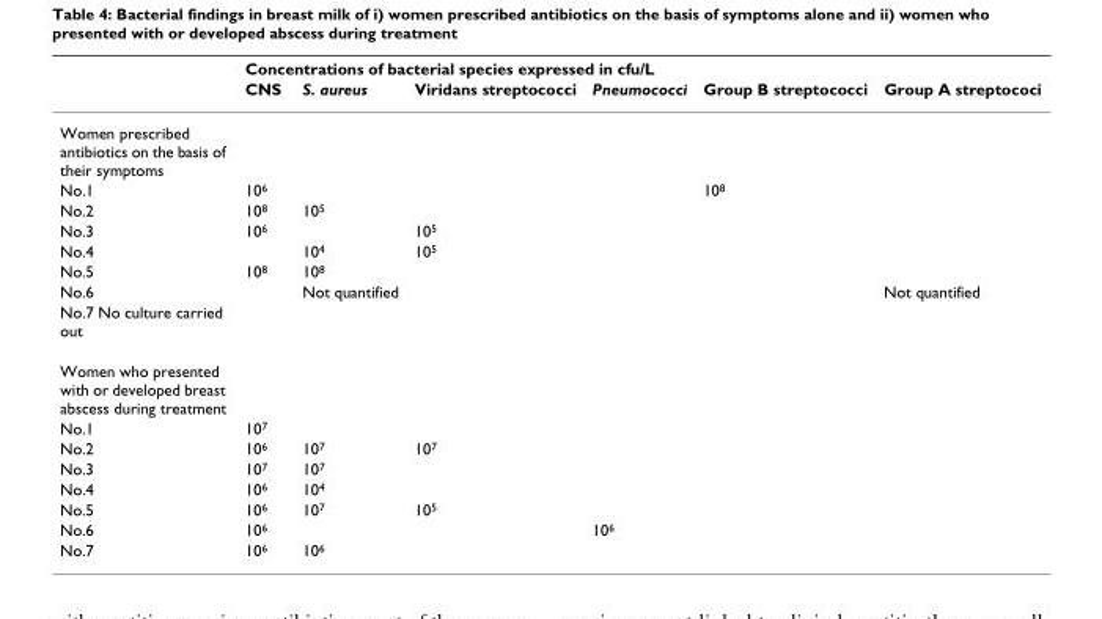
<table><thead><tr><td rowspan="2"></td><td colspan="6">Concentrations of bacterial species expressed in cfu/L</td></tr><tr><td>CNS</td><td>S. aureus</td><td>Viridans streptococci</td><td>Pneumococci</td><td>Group B streptococci</td><td>Group A streptococi</td></tr></thead><tbody><tr><td colspan="7">Women prescribed antibiotics on the basis of their symptoms</td></tr><tr><td>No.1</td><td>10<sup>6</sup></td><td></td><td></td><td></td><td>10<sup>8</sup></td><td></td></tr><tr><td>No.2</td><td>10<sup>8</sup></td><td>10<sup>5</sup></td><td></td><td></td><td></td><td></td></tr><tr><td>No.3</td><td>10<sup>6</sup></td><td></td><td>10<sup>5</sup></td><td></td><td></td><td></td></tr><tr><td>No.4</td><td></td><td>10<sup>4</sup></td><td>10<sup>5</sup></td><td></td><td></td><td></td></tr><tr><td>No.5</td><td>10<sup>8</sup></td><td>10<sup>8</sup></td><td></td><td></td><td></td><td></td></tr><tr><td>No.6</td><td></td><td>Not quantified</td><td></td><td></td><td></td><td>Not quantified</td></tr><tr><td colspan="7">No.7 No culture carried out</td></tr><tr><td colspan="7">Women who presented with or developed breast abscess during treatment</td></tr><tr><td>No.1</td><td>10<sup>7</sup></td><td></td><td></td><td></td><td></td><td></td></tr><tr><td>No.2</td><td>10<sup>6</sup></td><td>10<sup>7</sup></td><td>10<sup>7</sup></td><td></td><td></td><td></td></tr><tr><td>No.3</td><td>10<sup>7</sup></td><td>10<sup>7</sup></td><td></td><td></td><td></td><td></td></tr><tr><td>No.4</td><td>10<sup>6</sup></td><td>10<sup>4</sup></td><td></td><td></td><td></td><td></td></tr><tr><td>No.5</td><td>10<sup>6</sup></td><td>10<sup>7</sup></td><td>10<sup>5</sup></td><td></td><td></td><td></td></tr><tr><td>No.6</td><td>10<sup>6</sup></td><td></td><td></td><td>10<sup>6</sup></td><td></td><td></td></tr><tr><td>No.7</td><td>10<sup>6</sup></td><td>10<sup>6</sup></td><td></td><td></td><td></td><td></td></tr></tbody></table>